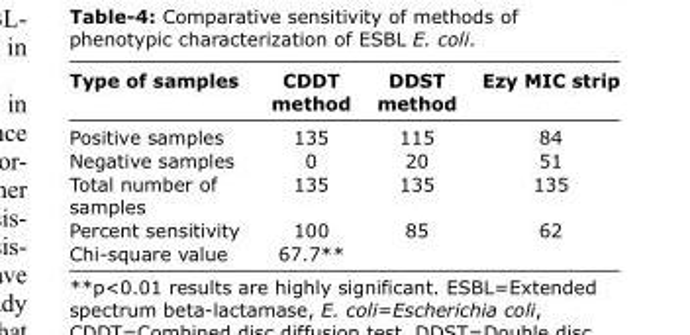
<table><thead><tr><td>Type of samples</td><td>CDDT method</td><td>DDST method</td><td>Ezy MIC strip</td></tr></thead><tbody><tr><td>Positive samples</td><td>135</td><td>115</td><td>84</td></tr><tr><td>Negative samples</td><td>0</td><td>20</td><td>51</td></tr><tr><td>Total number of samples</td><td>135</td><td>135</td><td>135</td></tr><tr><td>Percent sensitivity</td><td>100</td><td>85</td><td>62</td></tr><tr><td>Chi-square value</td><td>67.7**</td><td></td><td></td></tr></tbody></table>